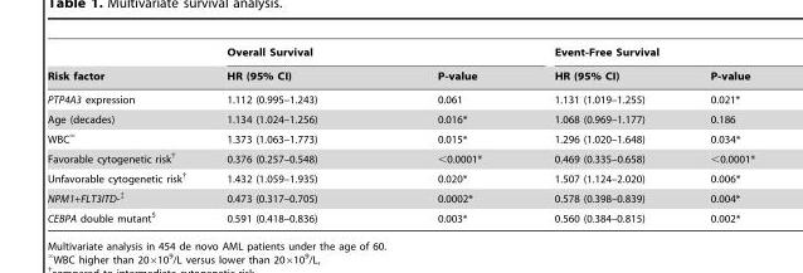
<table><thead><tr><td rowspan="2">Risk factor</td><td colspan="2">Overall Survival</td><td colspan="2">Event-Free Survival</td></tr><tr><td>HR (95% CI)</td><td>P-value</td><td>HR (95% CI)</td><td>P-value</td></tr></thead><tbody><tr><td>PTP4A3 expression</td><td>1.112 (0.995–1.243)</td><td>0.061</td><td>1.131 (1.019–1.255)</td><td>0.021*</td></tr><tr><td>Age (decades)</td><td>1.134 (1.024–1.256)</td><td>0.016*</td><td>1.068 (0.969–1.177)</td><td>0.186</td></tr><tr><td>WBC‘</td><td>1.373 (1.063–1.773)</td><td>0.015*</td><td>1.296 (1.020–1.648)</td><td>0.034*</td></tr><tr><td>Favorable cytogenetic risk†</td><td>0.376 (0.257–0.548)</td><td>&lt;0.0001*</td><td>0.469 (0.335–0.658)</td><td>&lt;0.0001*</td></tr><tr><td>Unfavorable cytogenetic risk†</td><td>1.432 (1.059–1.935)</td><td>0.020*</td><td>1.507 (1.124–2.020)</td><td>0.006*</td></tr><tr><td>NPM1+FLT3ITD-‡</td><td>0.473 (0.317–0.705)</td><td>0.0002*</td><td>0.578 (0.398–0.839)</td><td>0.004*</td></tr><tr><td>CEBPA double mutant$</td><td>0.591 (0.418–0.836)</td><td>0.003*</td><td>0.560 (0.384–0.815)</td><td>0.002*</td></tr></tbody></table>